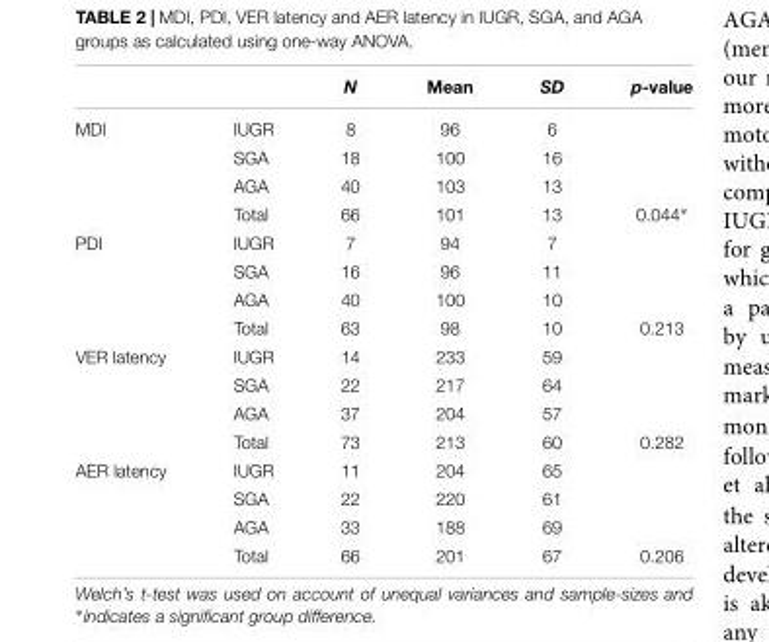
<table><thead><tr><td></td><td></td><td>N</td><td>Mean</td><td>SD</td><td>p-value</td></tr></thead><tbody><tr><td rowspan="4">MDI</td><td>IUGR</td><td>8</td><td>96</td><td>6</td><td></td></tr><tr><td>SGA</td><td>18</td><td>100</td><td>16</td><td></td></tr><tr><td>AGA</td><td>40</td><td>103</td><td>13</td><td></td></tr><tr><td>Total</td><td>66</td><td>101</td><td>13</td><td>0.044∗</td></tr><tr><td rowspan="4">PDI</td><td>IUGR</td><td>7</td><td>94</td><td>7</td><td></td></tr><tr><td>SGA</td><td>16</td><td>96</td><td>11</td><td></td></tr><tr><td>AGA</td><td>40</td><td>100</td><td>10</td><td></td></tr><tr><td>Total</td><td>63</td><td>98</td><td>10</td><td>0.213</td></tr><tr><td rowspan="4">VER latency</td><td>IUGR</td><td>14</td><td>233</td><td>59</td><td></td></tr><tr><td>SGA</td><td>22</td><td>217</td><td>64</td><td></td></tr><tr><td>AGA</td><td>37</td><td>204</td><td>57</td><td></td></tr><tr><td>Total</td><td>73</td><td>213</td><td>60</td><td>0.282</td></tr><tr><td rowspan="4">AER latency</td><td>IUGR</td><td>11</td><td>204</td><td>65</td><td></td></tr><tr><td>SGA</td><td>22</td><td>220</td><td>61</td><td></td></tr><tr><td>AGA</td><td>33</td><td>188</td><td>69</td><td></td></tr><tr><td>Total</td><td>66</td><td>201</td><td>67</td><td>0.206</td></tr></tbody></table>